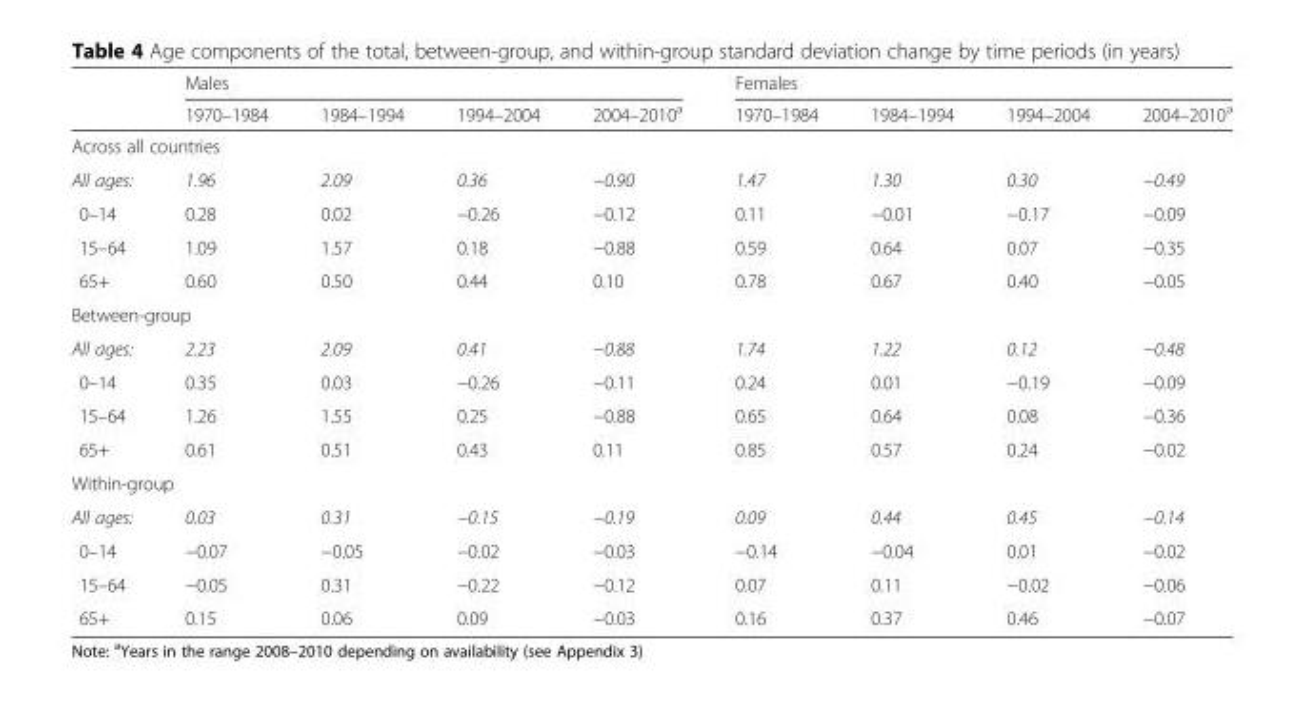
<table><thead><tr><td rowspan="2"></td><td colspan="4">Males</td><td colspan="4">Females</td></tr><tr><td>1970–1984</td><td>1984–1994</td><td>1994–2004</td><td>2004–2010<sup>a</sup></td><td>1970–1984</td><td>1984–1994</td><td>1994–2004</td><td>2004–2010<sup>a</sup></td></tr></thead><tbody><tr><td colspan="9">Across all countries</td></tr><tr><td>All ages:</td><td>1.96</td><td>2.09</td><td>0.36</td><td>−0.90</td><td>1.47</td><td>1.30</td><td>0.30</td><td>−0.49</td></tr><tr><td>0–14</td><td>0.28</td><td>0.02</td><td>−0.26</td><td>−0.12</td><td>0.11</td><td>−0.01</td><td>−0.17</td><td>−0.09</td></tr><tr><td>15–64</td><td>1.09</td><td>1.57</td><td>0.18</td><td>−0.88</td><td>0.59</td><td>0.64</td><td>0.07</td><td>−0.35</td></tr><tr><td>65+</td><td>0.60</td><td>0.50</td><td>0.44</td><td>0.10</td><td>0.78</td><td>0.67</td><td>0.40</td><td>−0.05</td></tr><tr><td colspan="9">Between-group</td></tr><tr><td>All ages:</td><td>2.23</td><td>2.09</td><td>0.41</td><td>−0.88</td><td>1.74</td><td>1.22</td><td>0.12</td><td>−0.48</td></tr><tr><td>0–14</td><td>0.35</td><td>0.03</td><td>−0.26</td><td>−0.11</td><td>0.24</td><td>0.01</td><td>−0.19</td><td>−0.09</td></tr><tr><td>15–64</td><td>1.26</td><td>1.55</td><td>0.25</td><td>−0.88</td><td>0.65</td><td>0.64</td><td>0.08</td><td>−0.36</td></tr><tr><td>65+</td><td>0.61</td><td>0.51</td><td>0.43</td><td>0.11</td><td>0.85</td><td>0.57</td><td>0.24</td><td>−0.02</td></tr><tr><td colspan="9">Within-group</td></tr><tr><td>All ages:</td><td>0.03</td><td>0.31</td><td>−0.15</td><td>−0.19</td><td>0.09</td><td>0.44</td><td>0.45</td><td>−0.14</td></tr><tr><td>0–14</td><td>−0.07</td><td>−0.05</td><td>−0.02</td><td>−0.03</td><td>−0.14</td><td>−0.04</td><td>0.01</td><td>−0.02</td></tr><tr><td>15–64</td><td>−0.05</td><td>0.31</td><td>−0.22</td><td>−0.12</td><td>0.07</td><td>0.11</td><td>−0.02</td><td>−0.06</td></tr><tr><td>65+</td><td>0.15</td><td>0.06</td><td>0.09</td><td>−0.03</td><td>0.16</td><td>0.37</td><td>0.46</td><td>−0.07</td></tr></tbody></table>